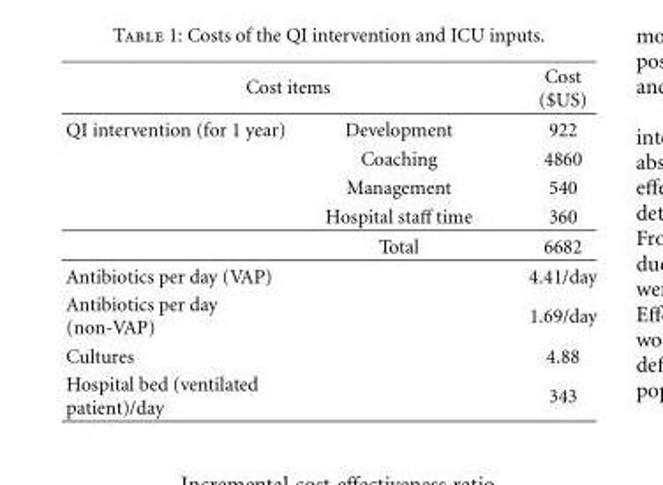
<table><thead><tr><td colspan="2">Cost items</td><td rowspan="2">Cost ($US) 922</td></tr><tr><td>QI intervention (for 1 year)</td><td>Development</td></tr></thead><tbody><tr><td></td><td>Coaching</td><td>4860</td></tr><tr><td></td><td>Management</td><td>540</td></tr><tr><td></td><td>Hospital staff time</td><td>360</td></tr><tr><td></td><td>Total</td><td>6682</td></tr><tr><td>Antibiotics per day (VAP)</td><td></td><td>4.41/day</td></tr><tr><td>Antibiotics per day (non-VAP)</td><td></td><td>1.69/day</td></tr><tr><td>Cultures</td><td></td><td>4.88</td></tr><tr><td>Hospital bed (ventilated patient)/day</td><td></td><td>343</td></tr></tbody></table>